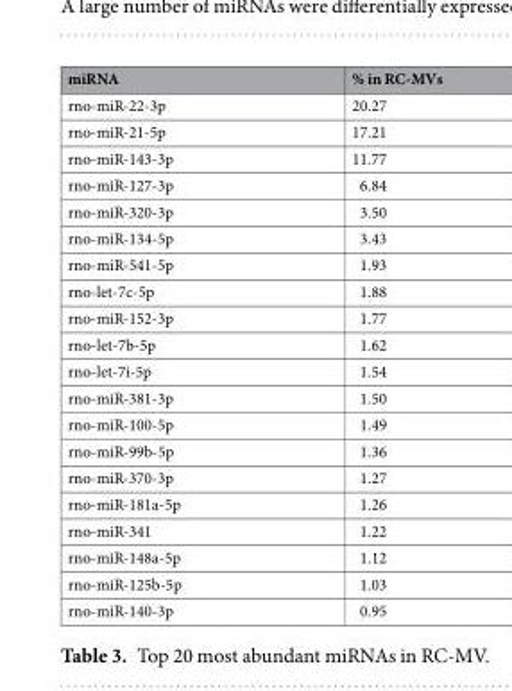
<table><thead><tr><td>miRNA</td><td>% in RC-MVs</td></tr></thead><tbody><tr><td>rno-miR-22-3p</td><td>20.27</td></tr><tr><td>rno-miR-21-5p</td><td>17.21</td></tr><tr><td>rno-miR-143-3p</td><td>11.77</td></tr><tr><td>rno-miR-127-3p</td><td>6.84</td></tr><tr><td>rno-miR-320-3p</td><td>3.50</td></tr><tr><td>rno-miR-134-5p</td><td>3.43</td></tr><tr><td>rno-miR-541-5p</td><td>1.93</td></tr><tr><td>rno-let-7c-5p</td><td>1.88</td></tr><tr><td>rno-miR-152-3p</td><td>1.77</td></tr><tr><td>rno-let-7b-5p</td><td>1.62</td></tr><tr><td>rno-let-7i-5p</td><td>1.54</td></tr><tr><td>rno-miR-381-3p</td><td>1.50</td></tr><tr><td>rno-miR-100-5p</td><td>1.49</td></tr><tr><td>rno-miR-99b-5p</td><td>1.36</td></tr><tr><td>rno-miR-370-3p</td><td>1.27</td></tr><tr><td>rno-miR-181a-5p</td><td>1.26</td></tr><tr><td>rno-miR-341</td><td>1.22</td></tr><tr><td>rno-miR-148a-5p</td><td>1.12</td></tr><tr><td>rno-miR-125b-5p</td><td>1.03</td></tr><tr><td>rno-miR-140-3p</td><td>0.95</td></tr></tbody></table>